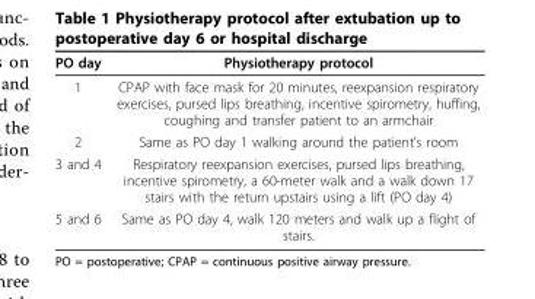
<table><thead><tr><td>PO day</td><td>Physiotherapy protocol</td></tr></thead><tbody><tr><td>1</td><td>CPAP with face mask for 20 minutes, reexpansion respiratory exercises, pursed lips breathing, incentive spirometry, huffing, coughing and transfer patient to an armchair</td></tr><tr><td>2</td><td>Same as PO day 1 walking around the patient’s room</td></tr><tr><td>3 and 4</td><td>Respiratory reexpansion exercises, pursed lips breathing, incentive spirometry, a 60-meter walk and a walk down 17 stairs with the return upstairs using a lift (PO day 4)</td></tr><tr><td>5 and 6</td><td>Same as PO day 4, walk 120 meters and walk up a flight of stairs.</td></tr></tbody></table>